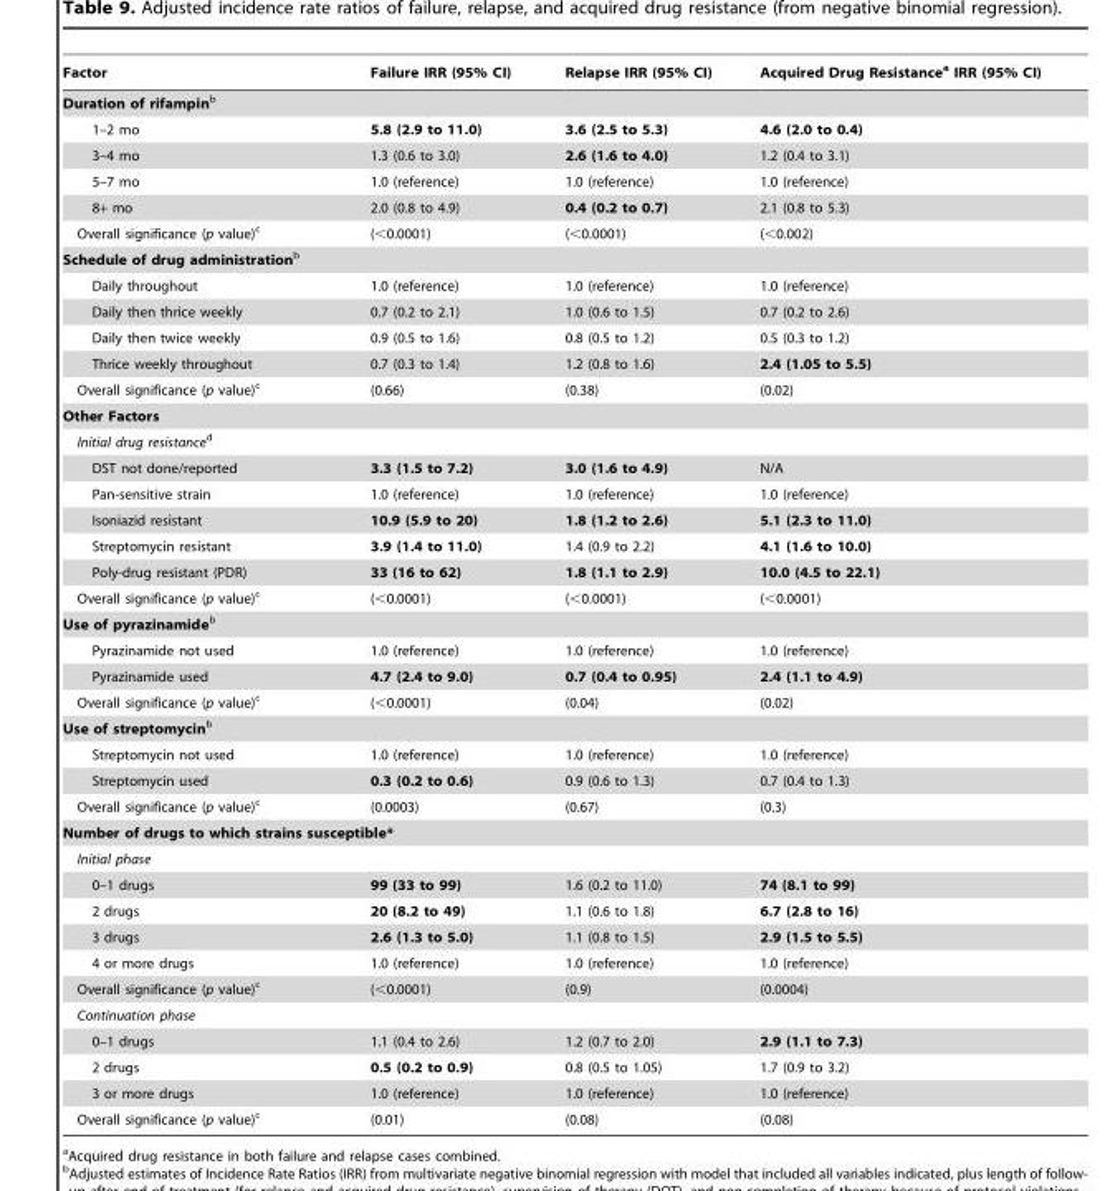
<table><thead><tr><td>Factor</td><td>Failure IRR (95% CI)</td><td>Relapse IRR (95% CI)</td><td>Acquired Drug Resistance<sup>a</sup> IRR (95% CI)</td></tr></thead><tbody><tr><td colspan="4">Duration of rifampinb</td></tr><tr><td>1–2 mo</td><td>5.8 (2.9 to 11.0)</td><td>3.6 (2.5 to 5.3)</td><td>4.6 (2.0 to 0.4)</td></tr><tr><td>3–4 mo</td><td>1.3 (0.6 to 3.0)</td><td>2.6 (1.6 to 4.0)</td><td>1.2 (0.4 to 3.1)</td></tr><tr><td>5–7 mo</td><td>1.0 (reference)</td><td>1.0 (reference)</td><td>1.0 (reference)</td></tr><tr><td>8+ mo</td><td>2.0 (0.8 to 4.9)</td><td>0.4 (0.2 to 0.7)</td><td>2.1 (0.8 to 5.3)</td></tr><tr><td>Overall significance (p value)<sup>c</sup></td><td>(&lt;0.0001)</td><td>(&lt;0.0001)</td><td>(&lt;0.002)</td></tr><tr><td colspan="4">Schedule of drug administrationb</td></tr><tr><td>Daily throughout</td><td>1.0 (reference)</td><td>1.0 (reference)</td><td>1.0 (reference)</td></tr><tr><td>Daily then thrice weekly</td><td>0.7 (0.2 to 2.1)</td><td>1.0 (0.6 to 1.5)</td><td>0.7 (0.2 to 2.6)</td></tr><tr><td>Daily then twice weekly</td><td>0.9 (0.5 to 1.6)</td><td>0.8 (0.5 to 1.2)</td><td>0.5 (0.3 to 1.2)</td></tr><tr><td>Thrice weekly throughout</td><td>0.7 (0.3 to 1.4)</td><td>1.2 (0.8 to 1.6)</td><td>2.4 (1.05 to 5.5)</td></tr><tr><td>Overall significance (p value)<sup>c</sup></td><td>(0.66)</td><td>(0.38)</td><td>(0.02)</td></tr><tr><td colspan="4">Other Factors</td></tr><tr><td colspan="4">Initial drug resistanced</td></tr><tr><td>DST not done/reported</td><td>3.3 (1.5 to 7.2)</td><td>3.0 (1.6 to 4.9)</td><td>N/A</td></tr><tr><td>Pan-sensitive strain</td><td>1.0 (reference)</td><td>1.0 (reference)</td><td>1.0 (reference)</td></tr><tr><td>Isoniazid resistant</td><td>10.9 (5.9 to 20)</td><td>1.8 (1.2 to 2.6)</td><td>5.1 (2.3 to 11.0)</td></tr><tr><td>Streptomycin resistant</td><td>3.9 (1.4 to 11.0)</td><td>1.4 (0.9 to 2.2)</td><td>4.1 (1.6 to 10.0)</td></tr><tr><td>Poly-drug resistant (PDR)</td><td>33 (16 to 62)</td><td>1.8 (1.1 to 2.9)</td><td>10.0 (4.5 to 22.1)</td></tr><tr><td>Overall significance (p value)<sup>c</sup></td><td>(&lt;0.0001)</td><td>(&lt;0.0001)</td><td>(&lt;0.0001)</td></tr><tr><td colspan="4">Use of pyrazinamideb</td></tr><tr><td>Pyrazinamide not used</td><td>1.0 (reference)</td><td>1.0 (reference)</td><td>1.0 (reference)</td></tr><tr><td>Pyrazinamide used</td><td>4.7 (2.4 to 9.0)</td><td>0.7 (0.4 to 0.95)</td><td>2.4 (1.1 to 4.9)</td></tr><tr><td>Overall significance (p value)<sup>c</sup></td><td>(&lt;0.0001)</td><td>(0.04)</td><td>(0.02)</td></tr><tr><td colspan="4">Use of streptomycinb</td></tr><tr><td>Streptomycin not used</td><td>1.0 (reference)</td><td>1.0 (reference)</td><td>1.0 (reference)</td></tr><tr><td>Streptomycin used</td><td>0.3 (0.2 to 0.6)</td><td>0.9 (0.6 to 1.3)</td><td>0.7 (0.4 to 1.3)</td></tr><tr><td>Overall significance (p value)<sup>c</sup></td><td>(0.0003)</td><td>(0.67)</td><td>(0.3)</td></tr><tr><td colspan="4">Number of drugs to which strains susceptible*</td></tr><tr><td colspan="4">Initial phase</td></tr><tr><td>0–1 drugs</td><td>99 (33 to 99)</td><td>1.6 (0.2 to 11.0)</td><td>74 (8.1 to 99)</td></tr><tr><td>2 drugs</td><td>20 (8.2 to 49)</td><td>1.1 (0.6 to 1.8)</td><td>6.7 (2.8 to 16)</td></tr><tr><td>3 drugs</td><td>2.6 (1.3 to 5.0)</td><td>1.1 (0.8 to 1.5)</td><td>2.9 (1.5 to 5.5)</td></tr><tr><td>4 or more drugs</td><td>1.0 (reference)</td><td>1.0 (reference)</td><td>1.0 (reference)</td></tr><tr><td>Overall significance (p value)<sup>c</sup></td><td>(&lt;0.0001)</td><td>(0.9)</td><td>(0.0004)</td></tr><tr><td colspan="4">Continuation phase</td></tr><tr><td>0–1 drugs</td><td>1.1 (0.4 to 2.6)</td><td>1.2 (0.7 to 2.0)</td><td>2.9 (1.1 to 7.3)</td></tr><tr><td>2 drugs</td><td>0.5 (0.2 to 0.9)</td><td>0.8 (0.5 to 1.05)</td><td>1.7 (0.9 to 3.2)</td></tr><tr><td>3 or more drugs</td><td>1.0 (reference)</td><td>1.0 (reference)</td><td>1.0 (reference)</td></tr><tr><td>Overall significance (p value)<sup>c</sup></td><td>(0.01)</td><td>(0.08)</td><td>(0.08)</td></tr></tbody></table>